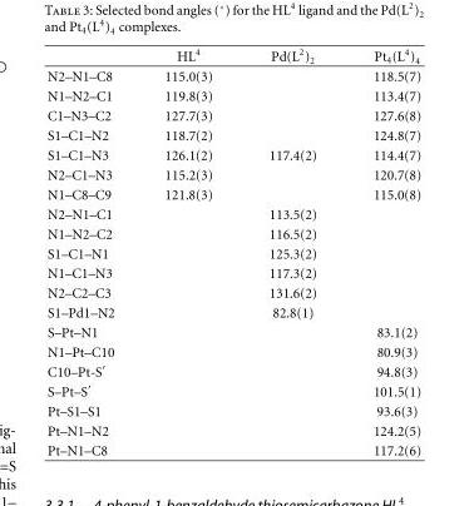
<table><thead><tr><td></td><td>HL<sup>4</sup></td><td>Pd(L<sup>2</sup>)<sub>2</sub></td><td>Pt<sub>4</sub>(L<sup>4</sup>)<sub>4</sub></td></tr></thead><tbody><tr><td>N2–N1–C8</td><td>115.0(3)</td><td></td><td>118.5(7)</td></tr><tr><td>N1–N2–C1</td><td>119.8(3)</td><td></td><td>113.4(7)</td></tr><tr><td>C1–N3–C2</td><td>127.7(3)</td><td></td><td>127.6(8)</td></tr><tr><td>S1–C1–N2</td><td>118.7(2)</td><td></td><td>124.8(7)</td></tr><tr><td>S1–C1–N3</td><td>126.1(2)</td><td>117.4(2)</td><td>114.4(7)</td></tr><tr><td>N2–C1–N3</td><td>115.2(3)</td><td></td><td>120.7(8)</td></tr><tr><td>N1–C8–C9</td><td>121.8(3)</td><td></td><td>115.0(8)</td></tr><tr><td>N2–N1–C1</td><td></td><td>113.5(2)</td><td></td></tr><tr><td>N1–N2–C2</td><td></td><td>116.5(2)</td><td></td></tr><tr><td>S1–C1–N1</td><td></td><td>125.3(2)</td><td></td></tr><tr><td>N1–C1–N3</td><td></td><td>117.3(2)</td><td></td></tr><tr><td>N2–C2–C3</td><td></td><td>131.6(2)</td><td></td></tr><tr><td>S1–Pd1–N2</td><td></td><td>82.8(1)</td><td></td></tr><tr><td>S–Pt–N1</td><td></td><td></td><td>83.1(2)</td></tr><tr><td>N1–Pt–C10</td><td></td><td></td><td>80.9(3)</td></tr><tr><td>C10–Pt-S′</td><td></td><td></td><td>94.8(3)</td></tr><tr><td>S–Pt–S′</td><td></td><td></td><td>101.5(1)</td></tr><tr><td>Pt–S1–S1</td><td></td><td></td><td>93.6(3)</td></tr><tr><td>Pt–N1–N2</td><td></td><td></td><td>124.2(5)</td></tr><tr><td>Pt–N1–C8</td><td></td><td></td><td>117.2(6)</td></tr></tbody></table>